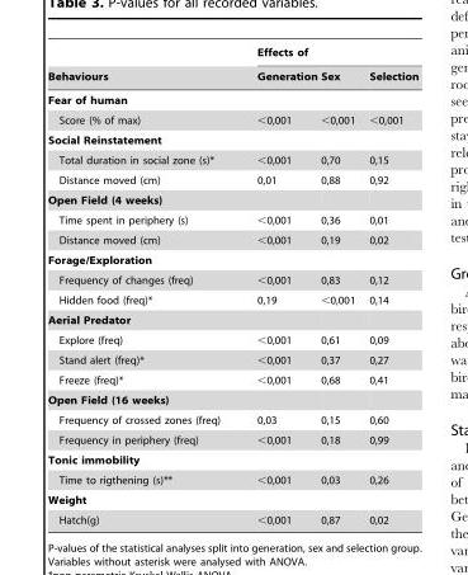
<table><thead><tr><td rowspan="2">Behaviours</td><td colspan="3">Effects of</td></tr><tr><td>Generation</td><td>Sex</td><td>Selection</td></tr></thead><tbody><tr><td colspan="4">Fear of human</td></tr><tr><td>Score (% of max)</td><td>&lt;0,001</td><td>&lt;0,001</td><td>&lt;0,001</td></tr><tr><td colspan="4">Social Reinstatement</td></tr><tr><td>Total duration in social zone (s)*</td><td>&lt;0,001</td><td>0,70</td><td>0,15</td></tr><tr><td>Distance moved (cm)</td><td>0,01</td><td>0,88</td><td>0,92</td></tr><tr><td colspan="4">Open Field (4 weeks)</td></tr><tr><td>Time spent in periphery (s)</td><td>&lt;0,001</td><td>0,36</td><td>0,01</td></tr><tr><td>Distance moved (cm)</td><td>&lt;0,001</td><td>0,19</td><td>0,02</td></tr><tr><td colspan="4">Forage/Exploration</td></tr><tr><td>Frequency of changes (freq)</td><td>&lt;0,001</td><td>0,83</td><td>0,12</td></tr><tr><td>Hidden food (freq)*</td><td>0,19</td><td>&lt;0,001</td><td>0,14</td></tr><tr><td colspan="4">Aerial Predator</td></tr><tr><td>Explore (freq)</td><td>&lt;0,001</td><td>0,61</td><td>0,09</td></tr><tr><td>Stand alert (freq)*</td><td>&lt;0,001</td><td>0,37</td><td>0,27</td></tr><tr><td>Freeze (freq)*</td><td>&lt;0,001</td><td>0,68</td><td>0,41</td></tr><tr><td colspan="4">Open Field (16 weeks)</td></tr><tr><td>Frequency of crossed zones (freq)</td><td>0,03</td><td>0,15</td><td>0,60</td></tr><tr><td>Frequency in periphery (freq)</td><td>&lt;0,001</td><td>0,18</td><td>0,99</td></tr><tr><td colspan="4">Tonic immobility</td></tr><tr><td>Time to rigthening (s)**</td><td>&lt;0,001</td><td>0,03</td><td>0,26</td></tr><tr><td colspan="4">Weight</td></tr><tr><td>Hatch(g)</td><td>&lt;0,001</td><td>0,87</td><td>0,02</td></tr></tbody></table>